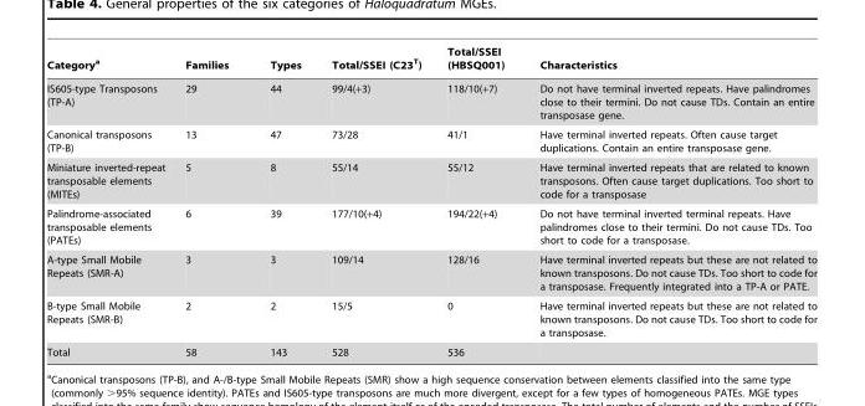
<table><thead><tr><td>Category<sup>a</sup></td><td>Families</td><td>Types</td><td>Total/SSEI (C23<sup>T</sup>)</td><td>Total/SSEI (HBSQ001)</td><td>Characteristics</td></tr></thead><tbody><tr><td>IS605-type Transposons (TP-A)</td><td>29</td><td>44</td><td>99/4(+3)</td><td>118/10(+7)</td><td>Do not have terminal inverted repeats. Have palindromes close to their termini. Do not cause TDs. Contain an entire transposase gene.</td></tr><tr><td>Canonical transposons (TP-B)</td><td>13</td><td>47</td><td>73/28</td><td>41/1</td><td>Have terminal inverted repeats. Often cause target duplications. Contain an entire transposase gene.</td></tr><tr><td>Miniature inverted-repeat transposable elements (MITEs)</td><td>5</td><td>8</td><td>55/14</td><td>55/12</td><td>Have terminal inverted repeats that are related to known transposons. Often cause target duplications. Too short to code for a transposase</td></tr><tr><td>Palindrome-associated transposable elements (PATEs)</td><td>6</td><td>39</td><td>177/10(+4)</td><td>194/22(+4)</td><td>Do not have terminal inverted terminal repeats. Have palindromes close to their termini. Do not cause TDs. Too short to code for a transposase.</td></tr><tr><td>A-type Small Mobile Repeats (SMR-A)</td><td>3</td><td>3</td><td>109/14</td><td>128/16</td><td>Have terminal inverted repeats but these are not related to known transposons. Do not cause TDs. Too short to code for a transposase. Frequently integrated into a TP-A or PATE.</td></tr><tr><td>B-type Small Mobile Repeats (SMR-B)</td><td>2</td><td>2</td><td>15/5</td><td>0</td><td>Have terminal inverted repeats but these are not related to known transposons. Do not cause TDs. Too short to code for a transposase.</td></tr><tr><td>Total</td><td>58</td><td>143</td><td>528</td><td>536</td><td></td></tr></tbody></table>